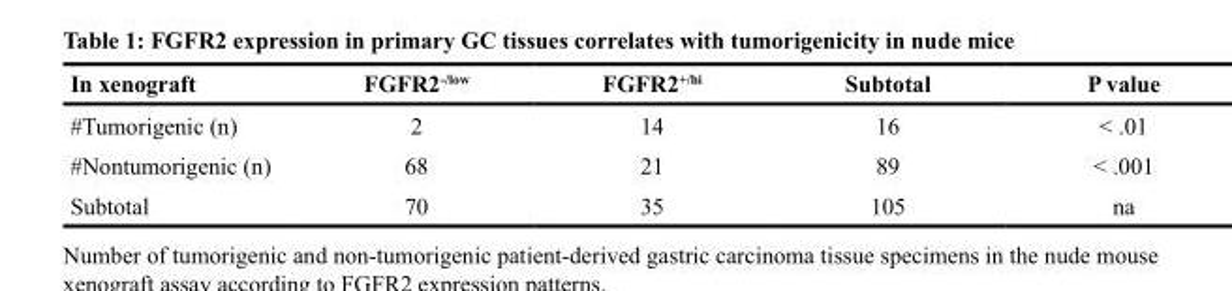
<table><thead><tr><td>In xenograft</td><td>FGFR2<sup>-/low</sup></td><td>FGFR2<sup>+/hi</sup></td><td>Subtotal</td><td>P value</td></tr></thead><tbody><tr><td>#Tumorigenic (n)</td><td>2</td><td>14</td><td>16</td><td>&lt; .01</td></tr><tr><td>#Nontumorigenic (n)</td><td>68</td><td>21</td><td>89</td><td>&lt; .001</td></tr><tr><td>Subtotal</td><td>70</td><td>35</td><td>105</td><td>na</td></tr></tbody></table>